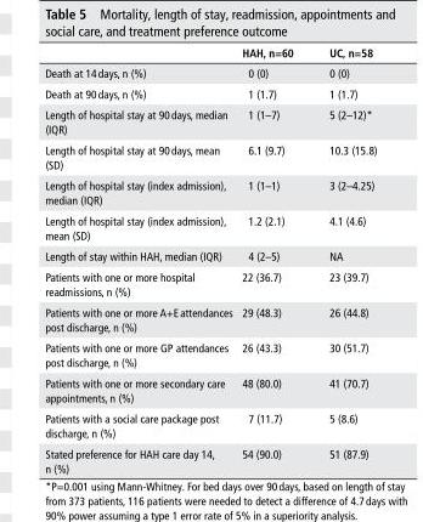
<table><thead><tr><td></td><td>hAh, n=60</td><td>uC, n=58</td></tr></thead><tbody><tr><td>Death at 14 days, n (%)</td><td>0 (0)</td><td>0 (0)</td></tr><tr><td>Death at 90 days, n (%)</td><td>1 (1.7)</td><td>1 (1.7)</td></tr><tr><td>Length of hospital stay at 90 days, median (IQR)</td><td>1 (1–7)</td><td>5 (2–12)*</td></tr><tr><td>Length of hospital stay at 90 days, mean (SD)</td><td>6.1 (9.7)</td><td>10.3 (15.8)</td></tr><tr><td>Length of hospital stay (index admission), median (IQR)</td><td>1 (1–1)</td><td>3 (2–4.25)</td></tr><tr><td>Length of hospital stay (index admission), mean (SD)</td><td>1.2 (2.1)</td><td>4.1 (4.6)</td></tr><tr><td>Length of stay within HAH, median (IQR)</td><td>4 (2–5)</td><td>NA</td></tr><tr><td>Patients with one or more hospital readmissions, n (%)</td><td>22 (36.7)</td><td>23 (39.7)</td></tr><tr><td>Patients with one or more A+E attendances post discharge, n (%)</td><td>29 (48.3)</td><td>26 (44.8)</td></tr><tr><td>Patients with one or more GP attendances post discharge, n (%)</td><td>26 (43.3)</td><td>30 (51.7)</td></tr><tr><td>Patients with one or more secondary care appointments, n (%)</td><td>48 (80.0)</td><td>41 (70.7)</td></tr><tr><td>Patients with a social care package post discharge, n (%)</td><td>7 (11.7)</td><td>5 (8.6)</td></tr><tr><td>Stated preference for HAH care day 14, n (%)</td><td>54 (90.0)</td><td>51 (87.9)</td></tr></tbody></table>